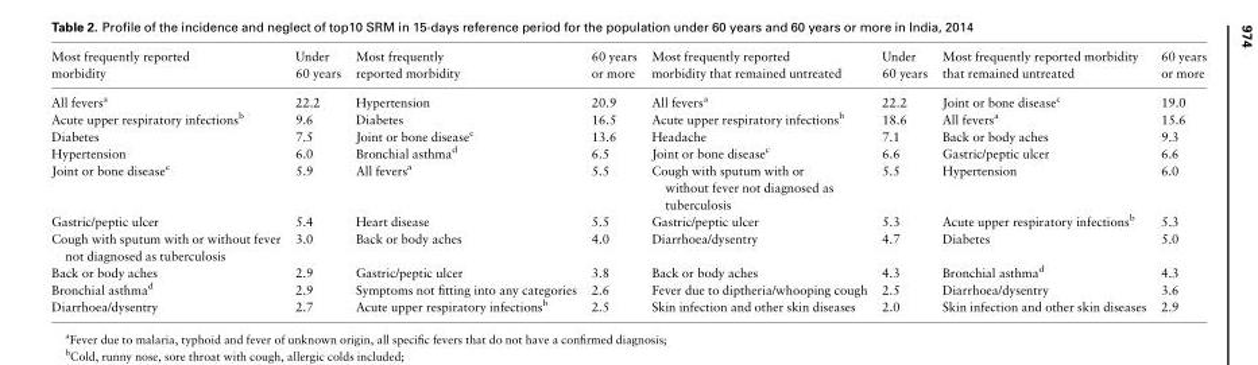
<table><thead><tr><td>Most frequently reported morbidity</td><td>Under 60 years</td><td>Most frequently reported morbidity</td><td>60 years or more</td><td>Most frequently reported morbidity that remained untreated</td><td>Under 60 years</td><td>Most frequently reported morbidity that remained untreated</td><td>60 years or more</td></tr></thead><tbody><tr><td>All fevers<sup>a</sup></td><td>22.2</td><td>Hypertension</td><td>20.9</td><td>All fevers<sup>a</sup></td><td>22.2</td><td>Joint or bone disease<sup>c</sup></td><td>19.0</td></tr><tr><td>Acute upper respiratory infections<sup>b</sup></td><td>9.6</td><td>Diabetes</td><td>16.5</td><td>Acute upper respiratory infections<sup>b</sup></td><td>18.6</td><td>All fevers<sup>a</sup></td><td>15.6</td></tr><tr><td>Diabetes</td><td>7.5</td><td>Joint or bone disease<sup>c</sup></td><td>13.6</td><td>Headache</td><td>7.1</td><td>Back or body aches</td><td>9.3</td></tr><tr><td>Hypertension</td><td>6.0</td><td>Bronchial asthma<sup>d</sup></td><td>6.5</td><td>Joint or bone disease<sup>c</sup></td><td>6.6</td><td>Gastric/peptic ulcer</td><td>6.6</td></tr><tr><td>Joint or bone disease<sup>c</sup></td><td>5.9</td><td>All fevers<sup>a</sup></td><td>5.5</td><td>Cough with sputum with or without fever not diagnosed as tuberculosis</td><td>5.5</td><td>Hypertension</td><td>6.0</td></tr><tr><td>Gastric/peptic ulcer</td><td>5.4</td><td>Heart disease</td><td>5.5</td><td>Gastric/peptic ulcer</td><td>5.3</td><td>Acute upper respiratory infections<sup>b</sup></td><td>5.3</td></tr><tr><td>Cough with sputum with or without fever not diagnosed as tuberculosis</td><td>3.0</td><td>Back or body aches</td><td>4.0</td><td>Diarrhoea/dysentry</td><td>4.7</td><td>Diabetes</td><td>5.0</td></tr><tr><td>Back or body aches</td><td>2.9</td><td>Gastric/peptic ulcer</td><td>3.8</td><td>Back or body aches</td><td>4.3</td><td>Bronchial asthma<sup>d</sup></td><td>4.3</td></tr><tr><td>Bronchial asthma<sup>d</sup></td><td>2.9</td><td>Symptoms not fitting into any categories</td><td>2.6</td><td>Fever due to diptheria/whooping cough</td><td>2.5</td><td>Diarrhoea/dysentry</td><td>3.6</td></tr><tr><td>Diarrhoea/dysentry</td><td>2.7</td><td>Acute upper respiratory infections<sup>b</sup></td><td>2.5</td><td>Skin infection and other skin diseases</td><td>2.0</td><td>Skin infection and other skin diseases</td><td>2.9</td></tr></tbody></table>